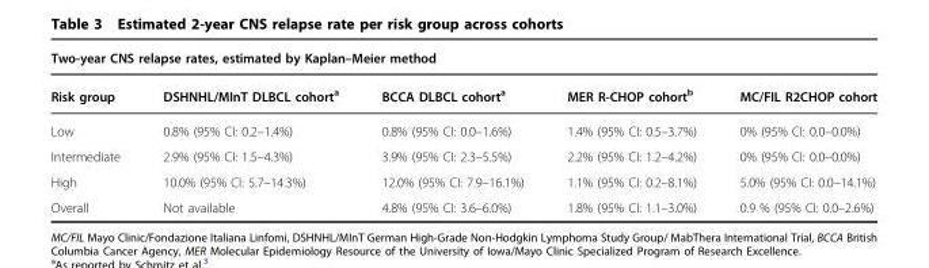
<table><thead><tr><td colspan="5">Two-year CNS relapse rates, estimated by Kaplan–Meier method</td></tr><tr><td>Risk group</td><td>DSHNHL/MInT DLBCL cohort<sup>a</sup></td><td>BCCA DLBCL cohort<sup>a</sup></td><td>MER R-CHOP cohort<sup>b</sup></td><td>MC/FIL R2CHOP cohort</td></tr></thead><tbody><tr><td>Low</td><td>0.8% (95% CI: 0.2–1.4%)</td><td>0.8% (95% CI: 0.0–1.6%)</td><td>1.4% (95% CI: 0.5–3.7%)</td><td>0% (95% CI: 0.0–0.0%)</td></tr><tr><td>Intermediate</td><td>2.9% (95% CI: 1.5–4.3%)</td><td>3.9% (95% CI: 2.3–5.5%)</td><td>2.2% (95% CI: 1.2–4.2%)</td><td>0% (95% CI: 0.0–0.0%)</td></tr><tr><td>High</td><td>10.0% (95% CI: 5.7–14.3%)</td><td>12.0% (95% CI: 7.9–16.1%)</td><td>1.1% (95% CI: 0.2–8.1%)</td><td>5.0% (95% CI: 0.0–14.1%)</td></tr><tr><td>Overall</td><td>Not available</td><td>4.8% (95% CI: 3.6–6.0%)</td><td>1.8% (95% CI: 1.1–3.0%)</td><td>0.9 % (95% CI: 0.0–2.6%)</td></tr></tbody></table>